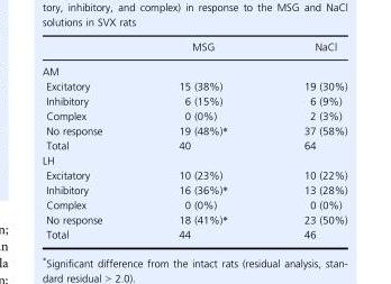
<table><thead><tr><td></td><td>MSG</td><td>NaCl</td></tr></thead><tbody><tr><td colspan="3">AM</td></tr><tr><td>Excitatory</td><td>15 (38%)</td><td>19 (30%)</td></tr><tr><td>Inhibitory</td><td>6 (15%)</td><td>6 (9%)</td></tr><tr><td>Complex</td><td>0 (0%)</td><td>2 (3%)</td></tr><tr><td>No response</td><td>19 (48%)*</td><td>37 (58%)</td></tr><tr><td>Total</td><td>40</td><td>64</td></tr><tr><td colspan="3">LH</td></tr><tr><td>Excitatory</td><td>10 (23%)</td><td>10 (22%)</td></tr><tr><td>Inhibitory</td><td>16 (36%)*</td><td>13 (28%)</td></tr><tr><td>Complex</td><td>0 (0%)</td><td>0 (0%)</td></tr><tr><td>No response</td><td>18 (41%)*</td><td>23 (50%)</td></tr><tr><td>Total</td><td>44</td><td>46</td></tr></tbody></table>